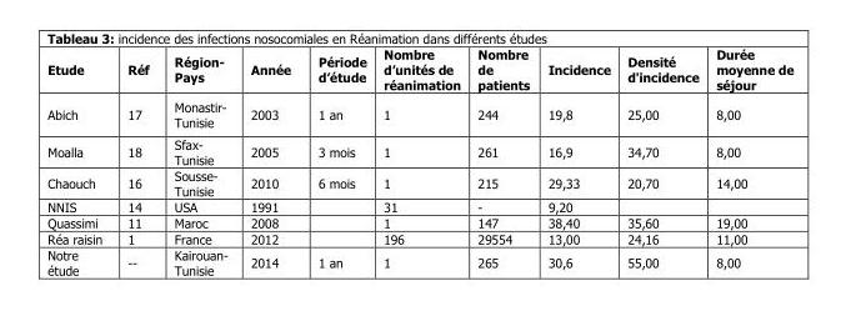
<table><thead><tr><td>Etude</td><td>Réf</td><td>Région- Pays</td><td>Année</td><td>Période d’étude</td><td>Nombre d’unités de réanimation</td><td>Nombre de patients</td><td>Incidence</td><td>Densité d&#x27;incidence</td><td>Durée moyenne de séjour</td></tr></thead><tbody><tr><td>Abich</td><td>17</td><td>Monastir- Tunisie</td><td>2003</td><td>1 an</td><td>1</td><td>244</td><td>19,8</td><td>25,00</td><td>8,00</td></tr><tr><td>Moalla</td><td>18</td><td>Sfax- Tunisie</td><td>2005</td><td>3 mois</td><td>1</td><td>261</td><td>16,9</td><td>34,70</td><td>8,00</td></tr><tr><td>Chaouch</td><td>16</td><td>Sousse- Tunisie</td><td>2010</td><td>6 mois</td><td>1</td><td>215</td><td>29,33</td><td>20,70</td><td>14,00</td></tr><tr><td>NNIS</td><td>14</td><td>USA</td><td>1991</td><td></td><td>31</td><td>-</td><td>9,20</td><td></td><td></td></tr><tr><td>Quassimi</td><td>11</td><td>Maroc</td><td>2008</td><td></td><td>1</td><td>147</td><td>38,40</td><td>35,60</td><td>19,00</td></tr><tr><td>Réa raisin</td><td>1</td><td>France</td><td>2012</td><td></td><td>196</td><td>29554</td><td>13,00</td><td>24,16</td><td>11,00</td></tr><tr><td>Notre étude</td><td>--</td><td>Kairouan- Tunisie</td><td>2014</td><td>1 an</td><td>1</td><td>265</td><td>30,6</td><td>55,00</td><td>8,00</td></tr></tbody></table>